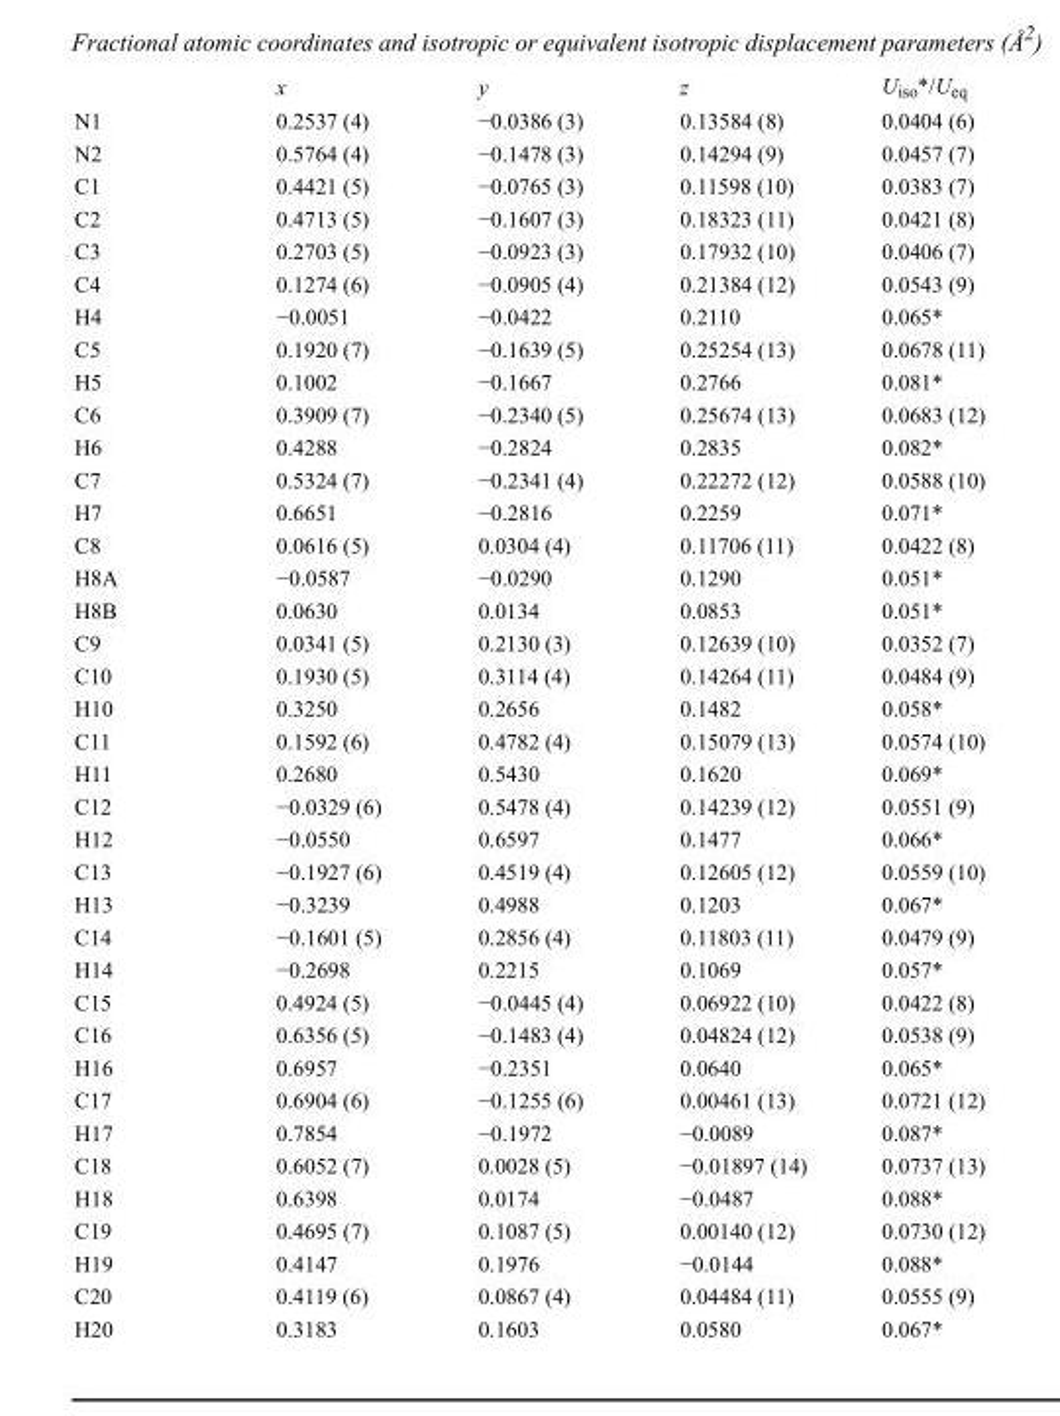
<table><thead><tr><td></td><td>x</td><td>y</td><td>z</td><td>U<sub>iso</sub>*/U<sub>eq</sub></td></tr></thead><tbody><tr><td>N1</td><td>0.2537 (4)</td><td>−0.0386 (3)</td><td>0.13584 (8)</td><td>0.0404 (6)</td></tr><tr><td>N2</td><td>0.5764 (4)</td><td>−0.1478 (3)</td><td>0.14294 (9)</td><td>0.0457 (7)</td></tr><tr><td>C1</td><td>0.4421 (5)</td><td>−0.0765 (3)</td><td>0.11598 (10)</td><td>0.0383 (7)</td></tr><tr><td>C2</td><td>0.4713 (5)</td><td>−0.1607 (3)</td><td>0.18323 (11)</td><td>0.0421 (8)</td></tr><tr><td>C3</td><td>0.2703 (5)</td><td>−0.0923 (3)</td><td>0.17932 (10)</td><td>0.0406 (7)</td></tr><tr><td>C4</td><td>0.1274 (6)</td><td>−0.0905 (4)</td><td>0.21384 (12)</td><td>0.0543 (9)</td></tr><tr><td>H4</td><td>−0.0051</td><td>−0.0422</td><td>0.2110</td><td>0.065*</td></tr><tr><td>C5</td><td>0.1920 (7)</td><td>−0.1639 (5)</td><td>0.25254 (13)</td><td>0.0678 (11)</td></tr><tr><td>H5</td><td>0.1002</td><td>−0.1667</td><td>0.2766</td><td>0.081*</td></tr><tr><td>C6</td><td>0.3909 (7)</td><td>−0.2340 (5)</td><td>0.25674 (13)</td><td>0.0683 (12)</td></tr><tr><td>H6</td><td>0.4288</td><td>−0.2824</td><td>0.2835</td><td>0.082*</td></tr><tr><td>C7</td><td>0.5324 (7)</td><td>−0.2341 (4)</td><td>0.22272 (12)</td><td>0.0588 (10)</td></tr><tr><td>H7</td><td>0.6651</td><td>−0.2816</td><td>0.2259</td><td>0.071*</td></tr><tr><td>C8</td><td>0.0616 (5)</td><td>0.0304 (4)</td><td>0.11706 (11)</td><td>0.0422 (8)</td></tr><tr><td>H8A</td><td>−0.0587</td><td>−0.0290</td><td>0.1290</td><td>0.051*</td></tr><tr><td>H8B</td><td>0.0630</td><td>0.0134</td><td>0.0853</td><td>0.051*</td></tr><tr><td>C9</td><td>0.0341 (5)</td><td>0.2130 (3)</td><td>0.12639 (10)</td><td>0.0352 (7)</td></tr><tr><td>C10</td><td>0.1930 (5)</td><td>0.3114 (4)</td><td>0.14264 (11)</td><td>0.0484 (9)</td></tr><tr><td>H10</td><td>0.3250</td><td>0.2656</td><td>0.1482</td><td>0.058*</td></tr><tr><td>C11</td><td>0.1592 (6)</td><td>0.4782 (4)</td><td>0.15079 (13)</td><td>0.0574 (10)</td></tr><tr><td>H11</td><td>0.2680</td><td>0.5430</td><td>0.1620</td><td>0.069*</td></tr><tr><td>C12</td><td>−0.0329 (6)</td><td>0.5478 (4)</td><td>0.14239 (12)</td><td>0.0551 (9)</td></tr><tr><td>H12</td><td>−0.0550</td><td>0.6597</td><td>0.1477</td><td>0.066*</td></tr><tr><td>C13</td><td>−0.1927 (6)</td><td>0.4519 (4)</td><td>0.12605 (12)</td><td>0.0559 (10)</td></tr><tr><td>H13</td><td>−0.3239</td><td>0.4988</td><td>0.1203</td><td>0.067*</td></tr><tr><td>C14</td><td>−0.1601 (5)</td><td>0.2856 (4)</td><td>0.11803 (11)</td><td>0.0479 (9)</td></tr><tr><td>H14</td><td>−0.2698</td><td>0.2215</td><td>0.1069</td><td>0.057*</td></tr><tr><td>C15</td><td>0.4924 (5)</td><td>−0.0445 (4)</td><td>0.06922 (10)</td><td>0.0422 (8)</td></tr><tr><td>C16</td><td>0.6356 (5)</td><td>−0.1483 (4)</td><td>0.04824 (12)</td><td>0.0538 (9)</td></tr><tr><td>H16</td><td>0.6957</td><td>−0.2351</td><td>0.0640</td><td>0.065*</td></tr><tr><td>C17</td><td>0.6904 (6)</td><td>−0.1255 (6)</td><td>0.00461 (13)</td><td>0.0721 (12)</td></tr><tr><td>H17</td><td>0.7854</td><td>−0.1972</td><td>−0.0089</td><td>0.087*</td></tr><tr><td>C18</td><td>0.6052 (7)</td><td>0.0028 (5)</td><td>−0.01897 (14)</td><td>0.0737 (13)</td></tr><tr><td>H18</td><td>0.6398</td><td>0.0174</td><td>−0.0487</td><td>0.088*</td></tr><tr><td>C19</td><td>0.4695 (7)</td><td>0.1087 (5)</td><td>0.00140 (12)</td><td>0.0730 (12)</td></tr><tr><td>H19</td><td>0.4147</td><td>0.1976</td><td>−0.0144</td><td>0.088*</td></tr><tr><td>C20</td><td>0.4119 (6)</td><td>0.0867 (4)</td><td>0.04484 (11)</td><td>0.0555 (9)</td></tr><tr><td>H20</td><td>0.3183</td><td>0.1603</td><td>0.0580</td><td>0.067*</td></tr></tbody></table>